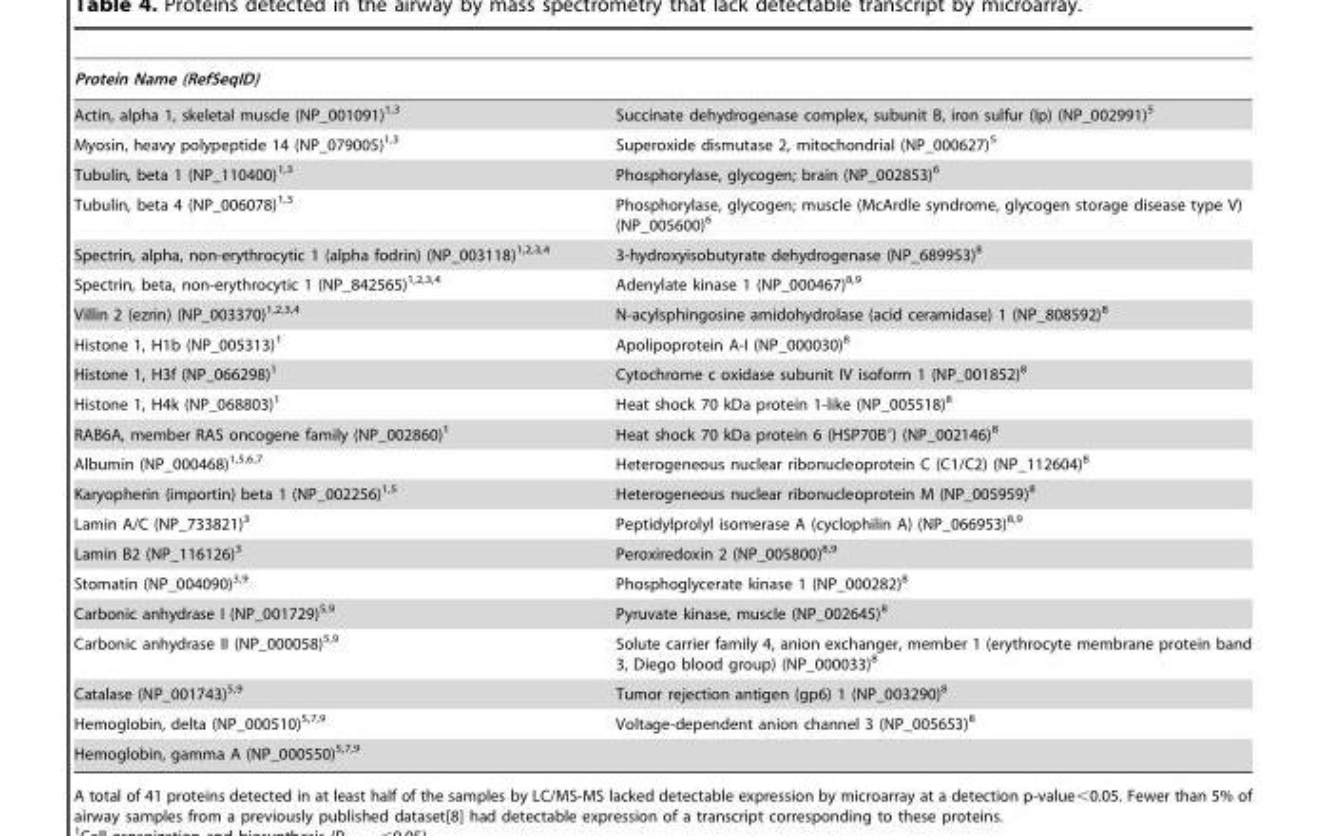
<table><thead><tr><td colspan="2">Protein Name (RefSeqID)</td></tr><tr><td>Actin, alpha 1, skeletal muscle (NP_001091)<sup>1,</sup>3</td><td>Succinate dehydrogenase complex, subunit B, iron sulfur (Ip) (NP_002991)<sup>5</sup></td></tr></thead><tbody><tr><td>Myosin, heavy polypeptide 14 (NP_079005)<sup>1,</sup>3</td><td>Superoxide dismutase 2, mitochondrial (NP_000627)<sup>5</sup></td></tr><tr><td>Tubulin, beta 1 (NP_110400)<sup>1,</sup>3</td><td>Phosphorylase, glycogen; brain (NP_002853)<sup>6</sup></td></tr><tr><td>Tubulin, beta 4 (NP_006078)<sup>1,</sup>3</td><td>Phosphorylase, glycogen; muscle (McArdle syndrome, glycogen storage disease type V) (NP_005600)<sup>6</sup></td></tr><tr><td>Spectrin, alpha, non-erythrocytic 1 (alpha fodrin) (NP_003118)<sup>1,</sup>2<sup>,</sup>3<sup>,</sup>4</td><td>3-hydroxyisobutyrate dehydrogenase (NP_689953)<sup>8</sup></td></tr><tr><td>Spectrin, beta, non-erythrocytic 1 (NP_842565)<sup>1,</sup>2<sup>,</sup>3<sup>,</sup>4</td><td>Adenylate kinase 1 (NP_000467)<sup>8,</sup>9</td></tr><tr><td>Villin 2 (ezrin) (NP_003370)<sup>1,</sup>2<sup>,</sup>3<sup>,</sup>4</td><td>N-acylsphingosine amidohydrolase (acid ceramidase) 1 (NP_808592)<sup>8</sup></td></tr><tr><td>Histone 1, H1b (NP_005313)<sup>1</sup></td><td>Apolipoprotein A-I (NP_000030)<sup>8</sup></td></tr><tr><td>Histone 1, H3f (NP_066298)<sup>1</sup></td><td>Cytochrome c oxidase subunit IV isoform 1 (NP_001852)<sup>8</sup></td></tr><tr><td>Histone 1, H4k (NP_068803)<sup>1</sup></td><td>Heat shock 70 kDa protein 1-like (NP_005518)<sup>8</sup></td></tr><tr><td>RAB6A, member RAS oncogene family (NP_002860)<sup>1</sup></td><td>Heat shock 70 kDa protein 6 (HSP70B′) (NP_002146)<sup>8</sup></td></tr><tr><td>Albumin (NP_000468)<sup>1,</sup>5<sup>,</sup>6<sup>,</sup>7</td><td>Heterogeneous nuclear ribonucleoprotein C (C1/C2) (NP_112604)<sup>8</sup></td></tr><tr><td>Karyopherin (importin) beta 1 (NP_002256)<sup>1,</sup>5</td><td>Heterogeneous nuclear ribonucleoprotein M (NP_005959)<sup>8</sup></td></tr><tr><td>Lamin A/C (NP_733821)<sup>3</sup></td><td>Peptidylprolyl isomerase A (cyclophilin A) (NP_066953)<sup>8,</sup>9</td></tr><tr><td>Lamin B2 (NP_116126)<sup>3</sup></td><td>Peroxiredoxin 2 (NP_005800)<sup>8,</sup>9</td></tr><tr><td>Stomatin (NP_004090)<sup>3,</sup>9</td><td>Phosphoglycerate kinase 1 (NP_000282)<sup>8</sup></td></tr><tr><td>Carbonic anhydrase I (NP_001729)<sup>5,</sup>9</td><td>Pyruvate kinase, muscle (NP_002645)<sup>8</sup></td></tr><tr><td>Carbonic anhydrase II (NP_000058)<sup>5,</sup>9</td><td>Solute carrier family 4, anion exchanger, member 1 (erythrocyte membrane protein band 3, Diego blood group) (NP_000033)<sup>8</sup></td></tr><tr><td>Catalase (NP_001743)<sup>5,</sup>9</td><td>Tumor rejection antigen (gp6) 1 (NP_003290)<sup>8</sup></td></tr><tr><td>Hemoglobin, delta (NP_000510)<sup>5,</sup>7<sup>,</sup>9</td><td>Voltage-dependent anion channel 3 (NP_005653)<sup>8</sup></td></tr><tr><td>Hemoglobin, gamma A (NP_000550)<sup>5,</sup>7<sup>,</sup>9</td><td></td></tr></tbody></table>